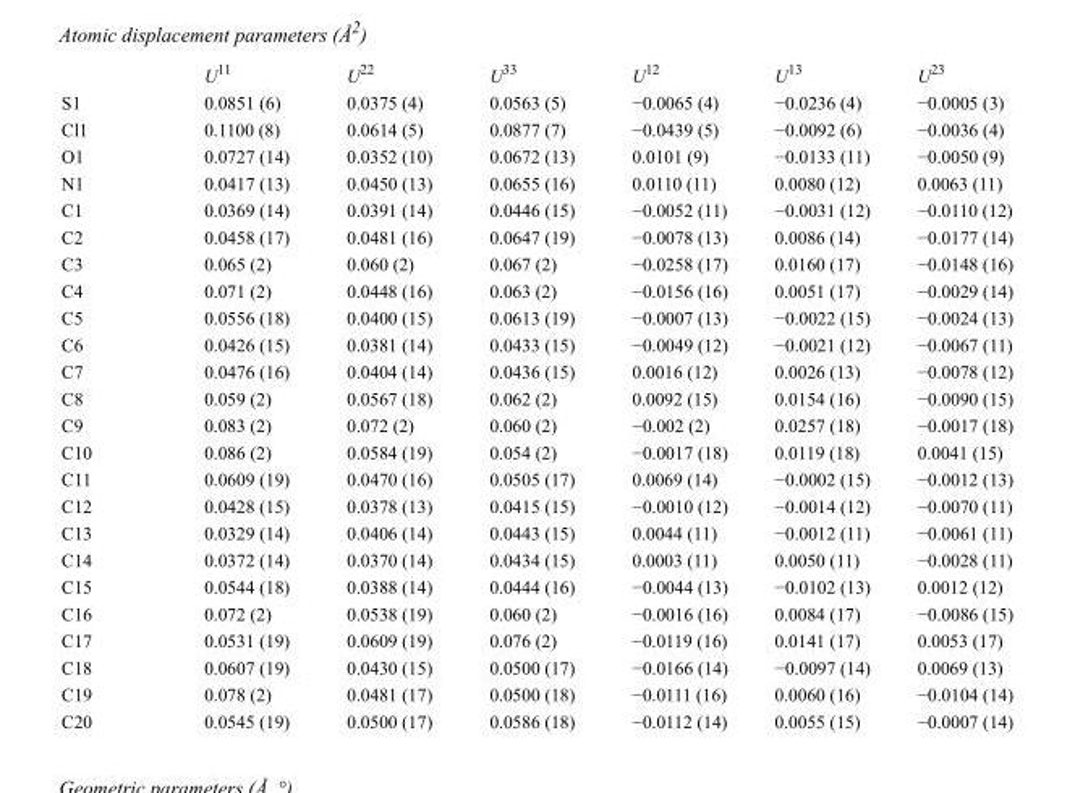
<table><thead><tr><td></td><td>U<sup>11</sup></td><td>U<sup>22</sup></td><td>U<sup>33</sup></td><td>U<sup>12</sup></td><td>U<sup>13</sup></td><td>U<sup>23</sup></td></tr></thead><tbody><tr><td>S1</td><td>0.0851 (6)</td><td>0.0375 (4)</td><td>0.0563 (5)</td><td>−0.0065 (4)</td><td>−0.0236 (4)</td><td>−0.0005 (3)</td></tr><tr><td>Cl1</td><td>0.1100 (8)</td><td>0.0614 (5)</td><td>0.0877 (7)</td><td>−0.0439 (5)</td><td>−0.0092 (6)</td><td>−0.0036 (4)</td></tr><tr><td>O1</td><td>0.0727 (14)</td><td>0.0352 (10)</td><td>0.0672 (13)</td><td>0.0101 (9)</td><td>−0.0133 (11)</td><td>−0.0050 (9)</td></tr><tr><td>N1</td><td>0.0417 (13)</td><td>0.0450 (13)</td><td>0.0655 (16)</td><td>0.0110 (11)</td><td>0.0080 (12)</td><td>0.0063 (11)</td></tr><tr><td>C1</td><td>0.0369 (14)</td><td>0.0391 (14)</td><td>0.0446 (15)</td><td>−0.0052 (11)</td><td>−0.0031 (12)</td><td>−0.0110 (12)</td></tr><tr><td>C2</td><td>0.0458 (17)</td><td>0.0481 (16)</td><td>0.0647 (19)</td><td>−0.0078 (13)</td><td>0.0086 (14)</td><td>−0.0177 (14)</td></tr><tr><td>C3</td><td>0.065 (2)</td><td>0.060 (2)</td><td>0.067 (2)</td><td>−0.0258 (17)</td><td>0.0160 (17)</td><td>−0.0148 (16)</td></tr><tr><td>C4</td><td>0.071 (2)</td><td>0.0448 (16)</td><td>0.063 (2)</td><td>−0.0156 (16)</td><td>0.0051 (17)</td><td>−0.0029 (14)</td></tr><tr><td>C5</td><td>0.0556 (18)</td><td>0.0400 (15)</td><td>0.0613 (19)</td><td>−0.0007 (13)</td><td>−0.0022 (15)</td><td>−0.0024 (13)</td></tr><tr><td>C6</td><td>0.0426 (15)</td><td>0.0381 (14)</td><td>0.0433 (15)</td><td>−0.0049 (12)</td><td>−0.0021 (12)</td><td>−0.0067 (11)</td></tr><tr><td>C7</td><td>0.0476 (16)</td><td>0.0404 (14)</td><td>0.0436 (15)</td><td>0.0016 (12)</td><td>0.0026 (13)</td><td>−0.0078 (12)</td></tr><tr><td>C8</td><td>0.059 (2)</td><td>0.0567 (18)</td><td>0.062 (2)</td><td>0.0092 (15)</td><td>0.0154 (16)</td><td>−0.0090 (15)</td></tr><tr><td>C9</td><td>0.083 (2)</td><td>0.072 (2)</td><td>0.060 (2)</td><td>−0.002 (2)</td><td>0.0257 (18)</td><td>−0.0017 (18)</td></tr><tr><td>C10</td><td>0.086 (2)</td><td>0.0584 (19)</td><td>0.054 (2)</td><td>−0.0017 (18)</td><td>0.0119 (18)</td><td>0.0041 (15)</td></tr><tr><td>C11</td><td>0.0609 (19)</td><td>0.0470 (16)</td><td>0.0505 (17)</td><td>0.0069 (14)</td><td>−0.0002 (15)</td><td>−0.0012 (13)</td></tr><tr><td>C12</td><td>0.0428 (15)</td><td>0.0378 (13)</td><td>0.0415 (15)</td><td>−0.0010 (12)</td><td>−0.0014 (12)</td><td>−0.0070 (11)</td></tr><tr><td>C13</td><td>0.0329 (14)</td><td>0.0406 (14)</td><td>0.0443 (15)</td><td>0.0044 (11)</td><td>−0.0012 (11)</td><td>−0.0061 (11)</td></tr><tr><td>C14</td><td>0.0372 (14)</td><td>0.0370 (14)</td><td>0.0434 (15)</td><td>0.0003 (11)</td><td>0.0050 (11)</td><td>−0.0028 (11)</td></tr><tr><td>C15</td><td>0.0544 (18)</td><td>0.0388 (14)</td><td>0.0444 (16)</td><td>−0.0044 (13)</td><td>−0.0102 (13)</td><td>0.0012 (12)</td></tr><tr><td>C16</td><td>0.072 (2)</td><td>0.0538 (19)</td><td>0.060 (2)</td><td>−0.0016 (16)</td><td>0.0084 (17)</td><td>−0.0086 (15)</td></tr><tr><td>C17</td><td>0.0531 (19)</td><td>0.0609 (19)</td><td>0.076 (2)</td><td>−0.0119 (16)</td><td>0.0141 (17)</td><td>0.0053 (17)</td></tr><tr><td>C18</td><td>0.0607 (19)</td><td>0.0430 (15)</td><td>0.0500 (17)</td><td>−0.0166 (14)</td><td>−0.0097 (14)</td><td>0.0069 (13)</td></tr><tr><td>C19</td><td>0.078 (2)</td><td>0.0481 (17)</td><td>0.0500 (18)</td><td>−0.0111 (16)</td><td>0.0060 (16)</td><td>−0.0104 (14)</td></tr><tr><td>C20</td><td>0.0545 (19)</td><td>0.0500 (17)</td><td>0.0586 (18)</td><td>−0.0112 (14)</td><td>0.0055 (15)</td><td>−0.0007 (14)</td></tr></tbody></table>